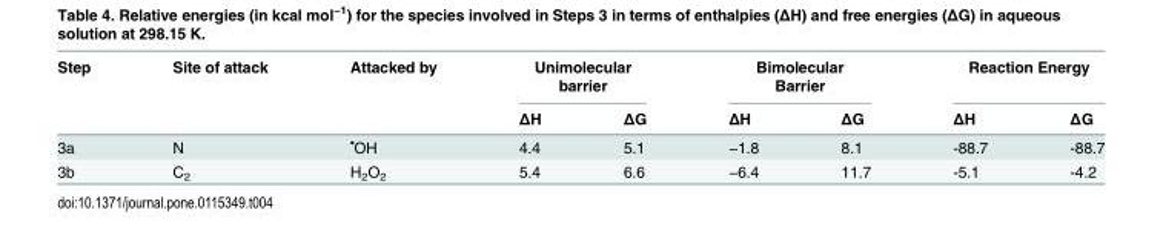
<table><thead><tr><td rowspan="2">Step</td><td rowspan="2">Site of attack</td><td rowspan="2">Attacked by</td><td colspan="2">Unimolecular barrier</td><td colspan="2">Bimolecular Barrier</td><td colspan="2">Reaction Energy</td></tr><tr><td>ΔH</td><td>ΔG</td><td>ΔH</td><td>ΔG</td><td>ΔH</td><td>ΔG</td></tr></thead><tbody><tr><td>3a</td><td>N</td><td><sup>•</sup>OH</td><td>4.4</td><td>5.1</td><td>−1.8</td><td>8.1</td><td>-88.7</td><td>-88.7</td></tr><tr><td>3b</td><td>C<sub>2</sub></td><td>H<sub>2</sub>O<sub>2</sub></td><td>5.4</td><td>6.6</td><td>−6.4</td><td>11.7</td><td>-5.1</td><td>-4.2</td></tr></tbody></table>